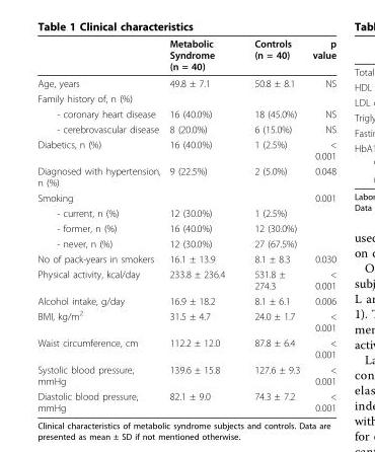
<table><thead><tr><td></td><td>Metabolic Syndrome (n = 40)</td><td>Controls (n = 40)</td><td>p value</td></tr></thead><tbody><tr><td>Age, years</td><td>49.8 ± 7.1</td><td>50.8 ± 8.1</td><td>NS</td></tr><tr><td colspan="4">Family history of, n (%)</td></tr><tr><td>- coronary heart disease</td><td>16 (40.0%)</td><td>18 (45.0%)</td><td>NS</td></tr><tr><td>- cerebrovascular disease</td><td>8 (20.0%)</td><td>6 (15.0%)</td><td>NS</td></tr><tr><td>Diabetics, n (%)</td><td>16 (40.0%)</td><td>1 (2.5%)</td><td>&lt; 0.001</td></tr><tr><td>Diagnosed with hypertension, n (%)</td><td>9 (22.5%)</td><td>2 (5.0%)</td><td>0.048</td></tr><tr><td>Smoking</td><td></td><td></td><td>0.001</td></tr><tr><td>- current, n (%)</td><td>12 (30.0%)</td><td>1 (2.5%)</td><td></td></tr><tr><td>- former, n (%)</td><td>16 (40.0%)</td><td>12 (30.0%)</td><td></td></tr><tr><td>- never, n (%)</td><td>12 (30.0%)</td><td>27 (67.5%)</td><td></td></tr><tr><td>No of pack-years in smokers</td><td>16.1 ± 13.9</td><td>8.1 ± 8.3</td><td>0.030</td></tr><tr><td>Physical activity, kcal/day</td><td>233.8 ± 236.4</td><td>531.8 ± 274.3</td><td>&lt; 0.001</td></tr><tr><td>Alcohol intake, g/day</td><td>16.9 ± 18.2</td><td>8.1 ± 6.1</td><td>0.006</td></tr><tr><td>BMI, kg/m<sup>2</sup></td><td>31.5 ± 4.7</td><td>24.0 ± 1.7</td><td>&lt; 0.001</td></tr><tr><td>Waist circumference, cm</td><td>112.2 ± 12.0</td><td>87.8 ± 6.4</td><td>&lt; 0.001</td></tr><tr><td>Systolic blood pressure, mmHg</td><td>139.6 ± 15.8</td><td>127.6 ± 9.3</td><td>&lt; 0.001</td></tr><tr><td>Diastolic blood pressure, mmHg</td><td>82.1 ± 9.0</td><td>74.3 ± 7.2</td><td>&lt; 0.001</td></tr></tbody></table>